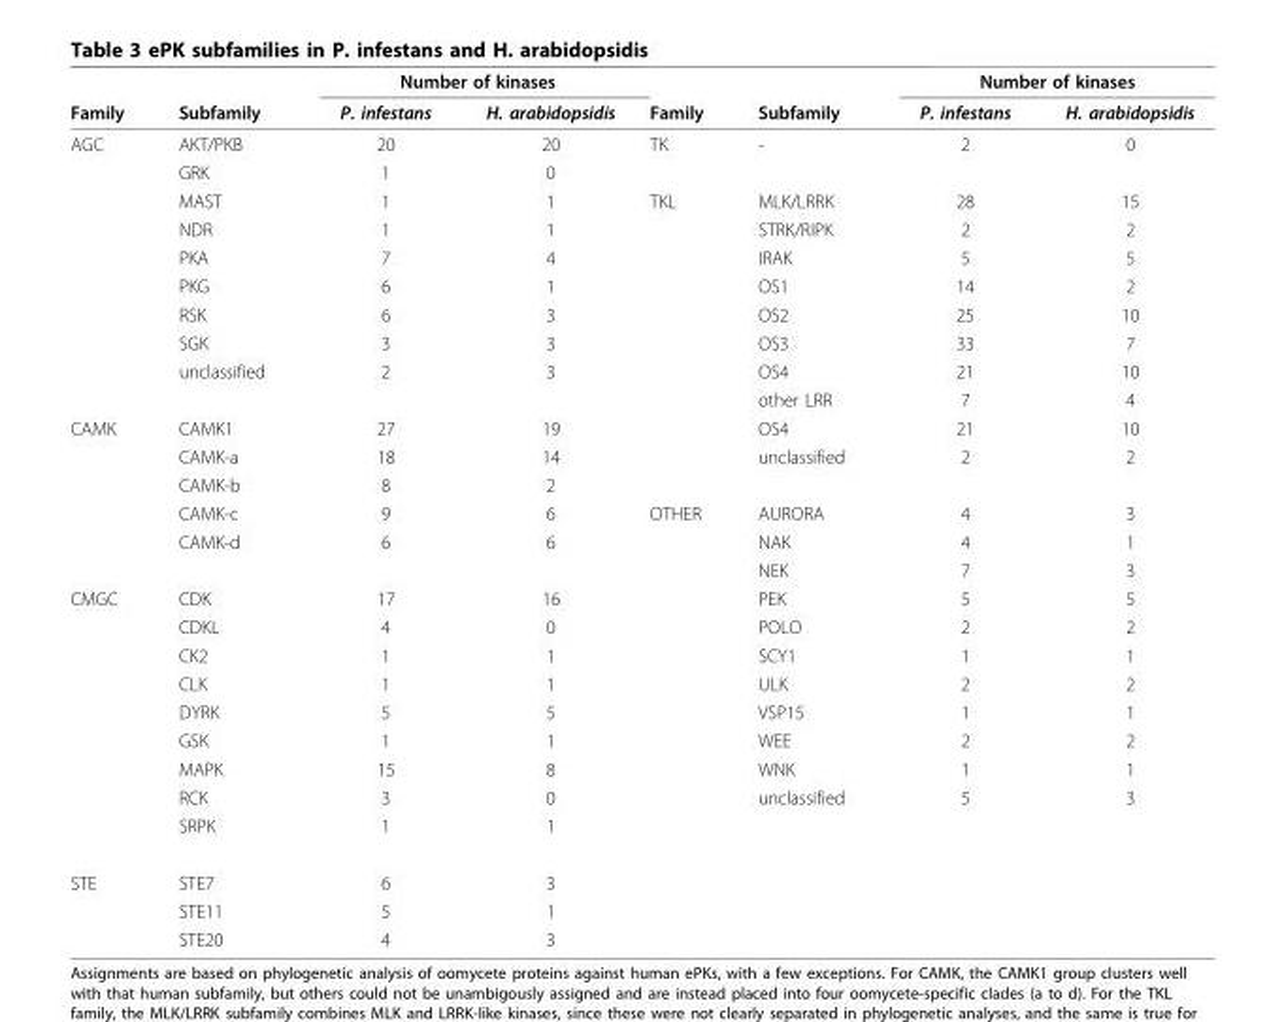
<table><thead><tr><td rowspan="2">Family</td><td rowspan="2">Subfamily</td><td colspan="2">Number of kinases</td><td rowspan="2">Family</td><td rowspan="2">Subfamily</td><td colspan="2">Number of kinases</td></tr><tr><td>P. infestans</td><td>H. arabidopsidis</td><td>P. infestans</td><td>H. arabidopsidis</td></tr></thead><tbody><tr><td rowspan="10">AGC</td><td>AKT/PKB</td><td>20</td><td>20</td><td>TK</td><td>-</td><td>2</td><td>0</td></tr><tr><td>GRK</td><td>1</td><td>0</td><td></td><td></td><td></td><td></td></tr><tr><td>MAST</td><td>1</td><td>1</td><td>TKL</td><td>MLK/LRRK</td><td>28</td><td>15</td></tr><tr><td>NDR</td><td>1</td><td>1</td><td></td><td>STRK/RIPK</td><td>2</td><td>2</td></tr><tr><td>PKA</td><td>7</td><td>4</td><td></td><td>IRAK</td><td>5</td><td>5</td></tr><tr><td>PKG</td><td>6</td><td>1</td><td></td><td>OS1</td><td>14</td><td>2</td></tr><tr><td>RSK</td><td>6</td><td>3</td><td></td><td>OS2</td><td>25</td><td>10</td></tr><tr><td>SGK</td><td>3</td><td>3</td><td></td><td>OS3</td><td>33</td><td>7</td></tr><tr><td>unclassified</td><td>2</td><td>3</td><td></td><td>OS4</td><td>21</td><td>10</td></tr><tr><td></td><td></td><td></td><td></td><td>other LRR</td><td>7</td><td>4</td></tr><tr><td rowspan="6">CAMK</td><td>CAMK1</td><td>27</td><td>19</td><td></td><td>OS4</td><td>21</td><td>10</td></tr><tr><td>CAMK-a</td><td>18</td><td>14</td><td></td><td>unclassified</td><td>2</td><td>2</td></tr><tr><td>CAMK-b</td><td>8</td><td>2</td><td></td><td></td><td></td><td></td></tr><tr><td>CAMK-c</td><td>9</td><td>6</td><td>OTHER</td><td>AURORA</td><td>4</td><td>3</td></tr><tr><td>CAMK-d</td><td>6</td><td>6</td><td></td><td>NAK</td><td>4</td><td>1</td></tr><tr><td></td><td></td><td></td><td></td><td>NEK</td><td>7</td><td>3</td></tr><tr><td rowspan="9">CMGC</td><td>CDK</td><td>17</td><td>16</td><td></td><td>PEK</td><td>5</td><td>5</td></tr><tr><td>CDKL</td><td>4</td><td>0</td><td></td><td>POLO</td><td>2</td><td>2</td></tr><tr><td>CK2</td><td>1</td><td>1</td><td></td><td>SCY1</td><td>1</td><td>1</td></tr><tr><td>CLK</td><td>1</td><td>1</td><td></td><td>ULK</td><td>2</td><td>2</td></tr><tr><td>DYRK</td><td>5</td><td>5</td><td></td><td>VSP15</td><td>1</td><td>1</td></tr><tr><td>GSK</td><td>1</td><td>1</td><td></td><td>WEE</td><td>2</td><td>2</td></tr><tr><td>MAPK</td><td>15</td><td>8</td><td></td><td>WNK</td><td>1</td><td>1</td></tr><tr><td>RCK</td><td>3</td><td>0</td><td></td><td>unclassified</td><td>5</td><td>3</td></tr><tr><td>SRPK</td><td>1</td><td>1</td><td></td><td></td><td></td><td></td></tr><tr><td rowspan="3">STE</td><td>STE7</td><td>6</td><td>3</td><td></td><td></td><td></td><td></td></tr><tr><td>STE11</td><td>5</td><td>1</td><td></td><td></td><td></td><td></td></tr><tr><td>STE20</td><td>4</td><td>3</td><td></td><td></td><td></td><td></td></tr></tbody></table>